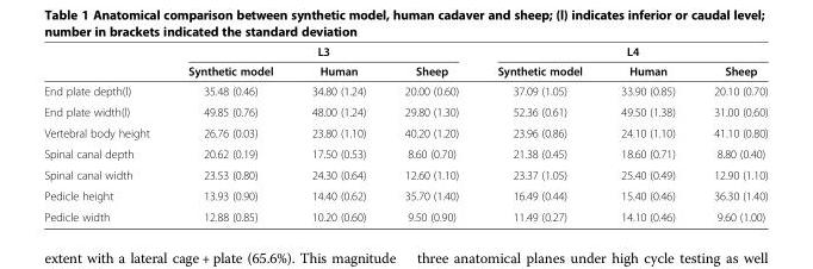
<table><thead><tr><td rowspan="2"></td><td colspan="3">L3</td><td colspan="3">L4</td></tr><tr><td>Synthetic model</td><td>Human</td><td>Sheep</td><td>Synthetic model</td><td>Human</td><td>Sheep</td></tr></thead><tbody><tr><td>End plate depth(l)</td><td>35.48 (0.46)</td><td>34.80 (1.24)</td><td>20.00 (0.60)</td><td>37.09 (1.05)</td><td>33.90 (0.85)</td><td>20.10 (0.70)</td></tr><tr><td>End plate width(l)</td><td>49.85 (0.76)</td><td>48.00 (1.24)</td><td>29.80 (1.30)</td><td>52.36 (0.61)</td><td>49.50 (1.38)</td><td>31.00 (0.60)</td></tr><tr><td>Vertebral body height</td><td>26.76 (0.03)</td><td>23.80 (1.10)</td><td>40.20 (1.20)</td><td>23.96 (0.86)</td><td>24.10 (1.10)</td><td>41.10 (0.80)</td></tr><tr><td>Spinal canal depth</td><td>20.62 (0.19)</td><td>17.50 (0.53)</td><td>8.60 (0.70)</td><td>21.38 (0.45)</td><td>18.60 (0.71)</td><td>8.80 (0.40)</td></tr><tr><td>Spinal canal width</td><td>23.53 (0.80)</td><td>24.30 (0.64)</td><td>12.60 (1.10)</td><td>23.37 (1.05)</td><td>25.40 (0.49)</td><td>12.90 (1.10)</td></tr><tr><td>Pedicle height</td><td>13.93 (0.90)</td><td>14.40 (0.62)</td><td>35.70 (1.40)</td><td>16.49 (0.44)</td><td>15.40 (0.46)</td><td>36.30 (1.40)</td></tr><tr><td>Pedicle width</td><td>12.88 (0.85)</td><td>10.20 (0.60)</td><td>9.50 (0.90)</td><td>11.49 (0.27)</td><td>14.10 (0.46)</td><td>9.60 (1.00)</td></tr></tbody></table>